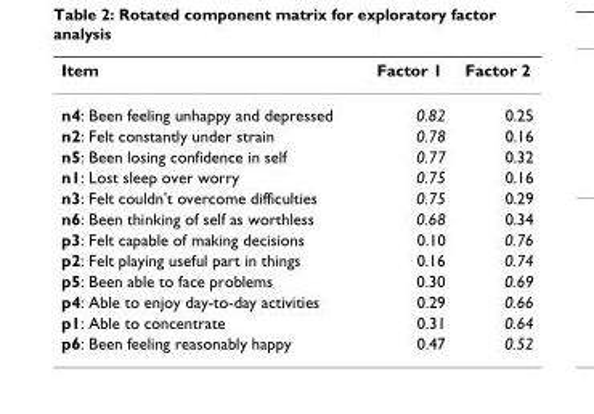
<table><thead><tr><td>Item</td><td>Factor 1</td><td>Factor 2</td></tr></thead><tbody><tr><td>n4: Been feeling unhappy and depressed</td><td>0.82</td><td>0.25</td></tr><tr><td>n2: Felt constantly under strain</td><td>0.78</td><td>0.16</td></tr><tr><td>n5: Been losing confidence in self</td><td>0.77</td><td>0.32</td></tr><tr><td>n1: Lost sleep over worry</td><td>0.75</td><td>0.16</td></tr><tr><td>n3: Felt couldn&#x27;t overcome difficulties</td><td>0.75</td><td>0.29</td></tr><tr><td>n6: Been thinking of self as worthless</td><td>0.68</td><td>0.34</td></tr><tr><td>p3: Felt capable of making decisions</td><td>0.10</td><td>0.76</td></tr><tr><td>p2: Felt playing useful part in things</td><td>0.16</td><td>0.74</td></tr><tr><td>p5: Been able to face problems</td><td>0.30</td><td>0.69</td></tr><tr><td>p4: Able to enjoy day-to-day activities</td><td>0.29</td><td>0.66</td></tr><tr><td>p1: Able to concentrate</td><td>0.31</td><td>0.64</td></tr><tr><td>p6: Been feeling reasonably happy</td><td>0.47</td><td>0.52</td></tr></tbody></table>